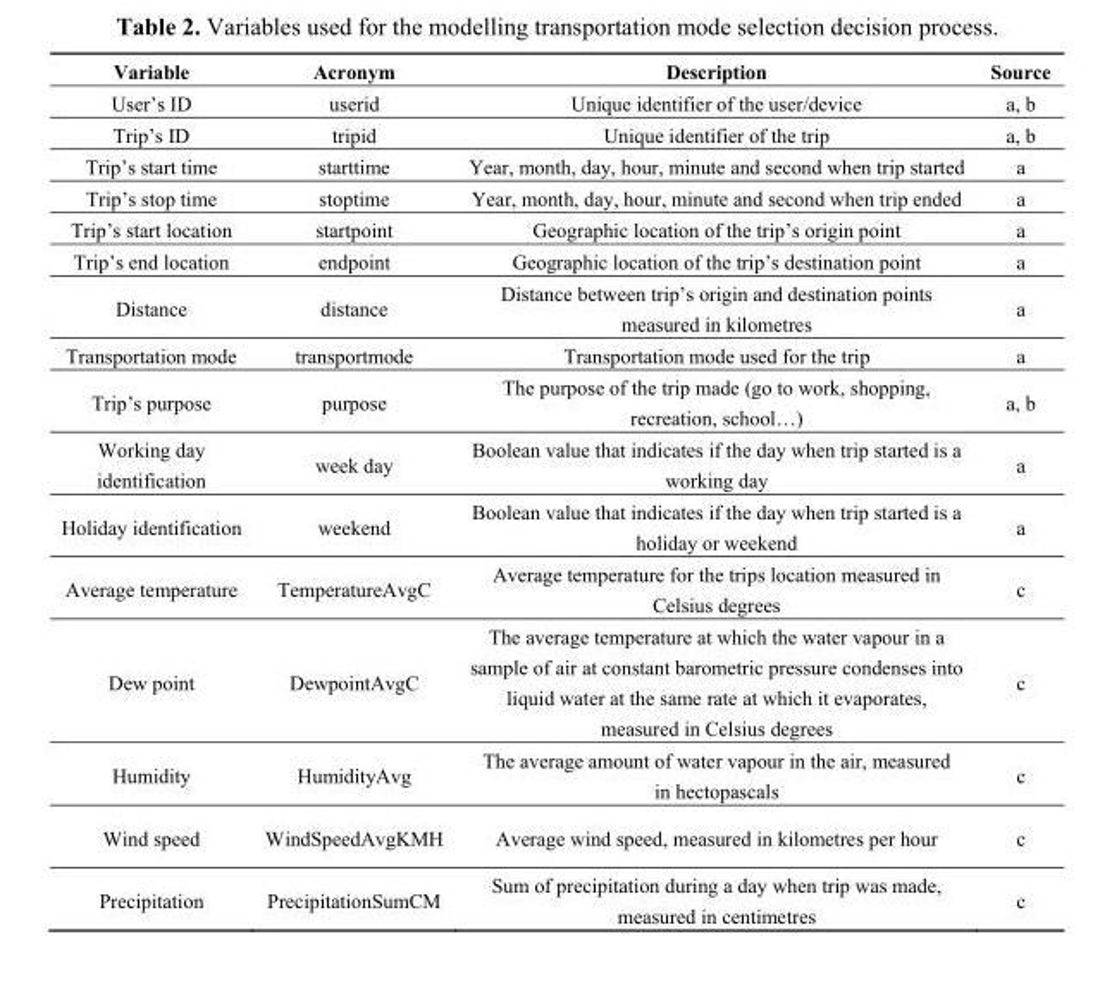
<table><thead><tr><td>Variable</td><td>Acronym</td><td>Description</td><td>Source</td></tr></thead><tbody><tr><td>User’s ID</td><td>userid</td><td>Unique identifier of the user/device</td><td>a, b</td></tr><tr><td>Trip’s ID</td><td>tripid</td><td>Unique identifier of the trip</td><td>a, b</td></tr><tr><td>Trip’s start time</td><td>starttime</td><td>Year, month, day, hour, minute and second when trip started</td><td>a</td></tr><tr><td>Trip’s stop time</td><td>stoptime</td><td>Year, month, day, hour, minute and second when trip ended</td><td>a</td></tr><tr><td>Trip’s start location</td><td>startpoint</td><td>Geographic location of the trip’s origin point</td><td>a</td></tr><tr><td>Trip’s end location</td><td>endpoint</td><td>Geographic location of the trip’s destination point</td><td>a</td></tr><tr><td>Distance</td><td>distance</td><td>Distance between trip’s origin and destination points measured in kilometres</td><td>a</td></tr><tr><td>Transportation mode</td><td>transportmode</td><td>Transportation mode used for the trip</td><td>a</td></tr><tr><td>Trip’s purpose</td><td>purpose</td><td>The purpose of the trip made (go to work, shopping, recreation, school…)</td><td>a, b</td></tr><tr><td>Working day identification</td><td>week day</td><td>Boolean value that indicates if the day when trip started is a working day</td><td>a</td></tr><tr><td>Holiday identification</td><td>weekend</td><td>Boolean value that indicates if the day when trip started is a holiday or weekend</td><td>a</td></tr><tr><td>Average temperature</td><td>TemperatureAvgC</td><td>Average temperature for the trips location measured in Celsius degrees</td><td>c</td></tr><tr><td>Dew point</td><td>DewpointAvgC</td><td>The average temperature at which the water vapour in a sample of air at constant barometric pressure condenses into liquid water at the same rate at which it evaporates, measured in Celsius degrees</td><td>c</td></tr><tr><td>Humidity</td><td>HumidityAvg</td><td>The average amount of water vapour in the air, measured in hectopascals</td><td>c</td></tr><tr><td>Wind speed</td><td>WindSpeedAvgKMH</td><td>Average wind speed, measured in kilometres per hour</td><td>c</td></tr><tr><td>Precipitation</td><td>PrecipitationSumCM</td><td>Sum of precipitation during a day when trip was made, measured in centimetres</td><td>c</td></tr></tbody></table>